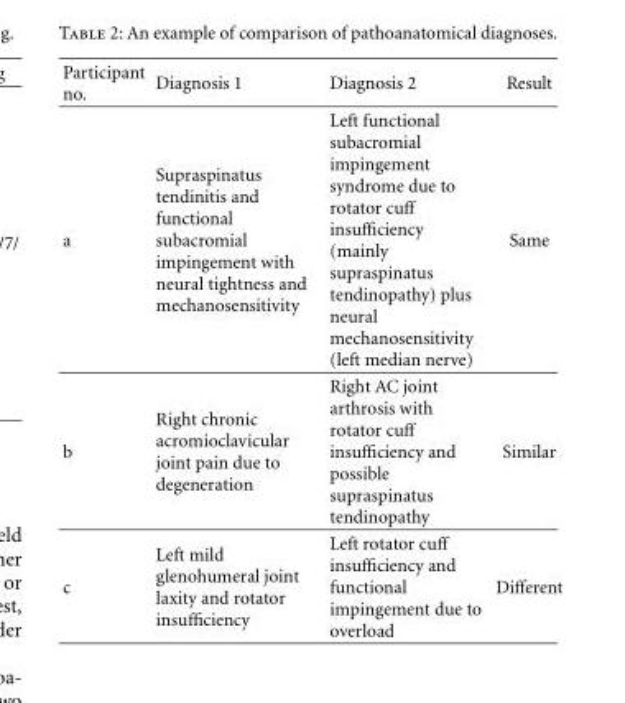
<table><thead><tr><td>Participant no.</td><td>Diagnosis 1</td><td>Diagnosis 2</td><td>Result</td></tr></thead><tbody><tr><td>a</td><td>Supraspinatus tendinitis and functional subacromial impingement with neural tightness and mechanosensitivity</td><td>Left functional subacromial impingement syndrome due to rotator cuff insufficiency (mainly supraspinatus tendinopathy) plus neural mechanosensitivity (left median nerve)</td><td>Same</td></tr><tr><td>b</td><td>Right chronic acromioclavicular joint pain due to degeneration</td><td>Right AC joint arthrosis with rotator cuff insufficiency and possible supraspinatus tendinopathy</td><td>Similar</td></tr><tr><td>c</td><td>Left mild glenohumeral joint laxity and rotator insufficiency</td><td>Left rotator cuff insufficiency and functional impingement due to overload</td><td>Different</td></tr></tbody></table>